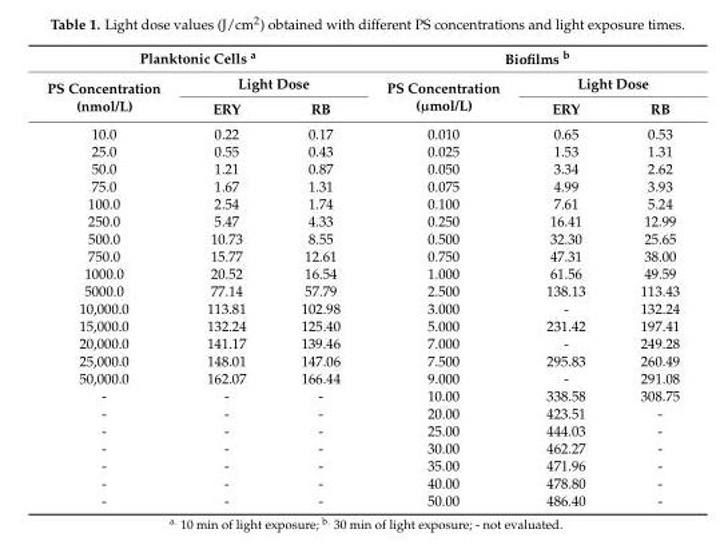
<table><thead><tr><td colspan="3">Planktonic Cells <sup>a</sup></td><td colspan="3">Biofilms <sup>b</sup></td></tr><tr><td rowspan="2">PS Concentration (nmol/L)</td><td colspan="2">Light Dose</td><td rowspan="2">PS Concentration (µmol/L)</td><td colspan="2">Light Dose</td></tr><tr><td>ERY</td><td>RB</td><td>ERY</td><td>RB</td></tr></thead><tbody><tr><td>10.0</td><td>0.22</td><td>0.17</td><td>0.010</td><td>0.65</td><td>0.53</td></tr><tr><td>25.0</td><td>0.55</td><td>0.43</td><td>0.025</td><td>1.53</td><td>1.31</td></tr><tr><td>50.0</td><td>1.21</td><td>0.87</td><td>0.050</td><td>3.34</td><td>2.62</td></tr><tr><td>75.0</td><td>1.67</td><td>1.31</td><td>0.075</td><td>4.99</td><td>3.93</td></tr><tr><td>100.0</td><td>2.54</td><td>1.74</td><td>0.100</td><td>7.61</td><td>5.24</td></tr><tr><td>250.0</td><td>5.47</td><td>4.33</td><td>0.250</td><td>16.41</td><td>12.99</td></tr><tr><td>500.0</td><td>10.73</td><td>8.55</td><td>0.500</td><td>32.30</td><td>25.65</td></tr><tr><td>750.0</td><td>15.77</td><td>12.61</td><td>0.750</td><td>47.31</td><td>38.00</td></tr><tr><td>1000.0</td><td>20.52</td><td>16.54</td><td>1.000</td><td>61.56</td><td>49.59</td></tr><tr><td>5000.0</td><td>77.14</td><td>57.79</td><td>2.500</td><td>138.13</td><td>113.43</td></tr><tr><td>10,000.0</td><td>113.81</td><td>102.98</td><td>3.000</td><td>-</td><td>132.24</td></tr><tr><td>15,000.0</td><td>132.24</td><td>125.40</td><td>5.000</td><td>231.42</td><td>197.41</td></tr><tr><td>20,000.0</td><td>141.17</td><td>139.46</td><td>7.000</td><td>-</td><td>249.28</td></tr><tr><td>25,000.0</td><td>148.01</td><td>147.06</td><td>7.500</td><td>295.83</td><td>260.49</td></tr><tr><td>50,000.0</td><td>162.07</td><td>166.44</td><td>9.000</td><td>-</td><td>291.08</td></tr><tr><td>-</td><td>-</td><td>-</td><td>10.00</td><td>338.58</td><td>308.75</td></tr><tr><td>-</td><td>-</td><td>-</td><td>20.00</td><td>423.51</td><td>-</td></tr><tr><td>-</td><td>-</td><td>-</td><td>25.00</td><td>444.03</td><td>-</td></tr><tr><td>-</td><td>-</td><td>-</td><td>30.00</td><td>462.27</td><td>-</td></tr><tr><td>-</td><td>-</td><td>-</td><td>35.00</td><td>471.96</td><td>-</td></tr><tr><td>-</td><td>-</td><td>-</td><td>40.00</td><td>478.80</td><td>-</td></tr><tr><td>-</td><td>-</td><td>-</td><td>50.00</td><td>486.40</td><td>-</td></tr></tbody></table>